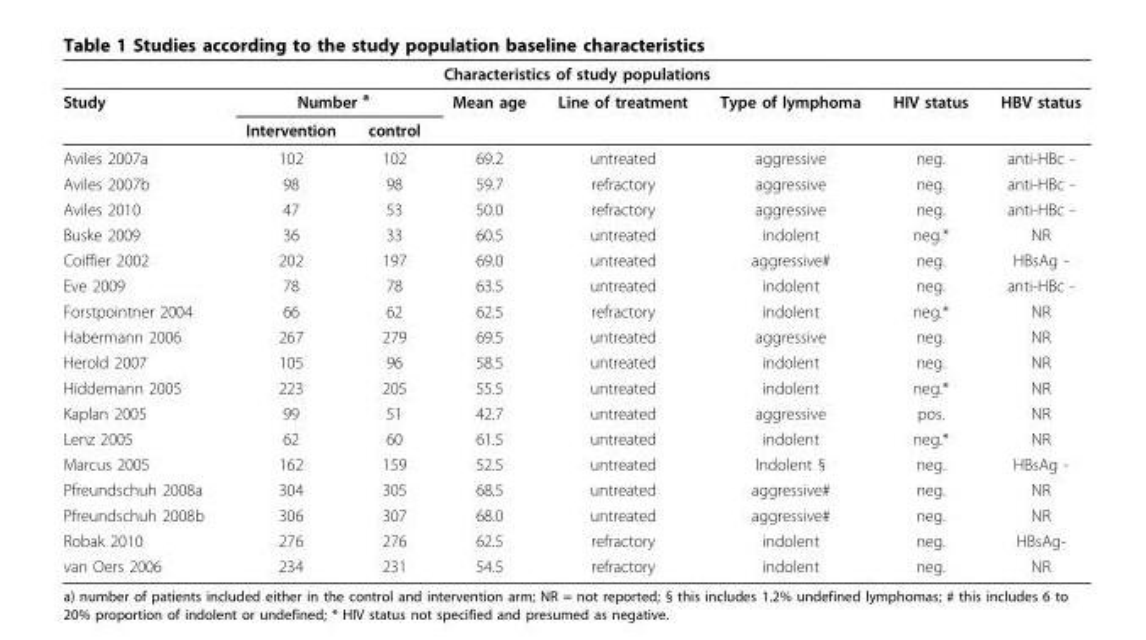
<table><thead><tr><td colspan="8">Characteristics of study populations</td></tr><tr><td rowspan="2">Study</td><td colspan="2">Number <sup>a</sup></td><td rowspan="2">Mean age</td><td rowspan="2">Line of treatment</td><td rowspan="2">Type of lymphoma</td><td rowspan="2">HIV status</td><td rowspan="2">HBV status</td></tr><tr><td>Intervention</td><td>control</td></tr></thead><tbody><tr><td>Aviles 2007a</td><td>102</td><td>102</td><td>69.2</td><td>untreated</td><td>aggressive</td><td>neg.</td><td>anti-HBc -</td></tr><tr><td>Aviles 2007b</td><td>98</td><td>98</td><td>59.7</td><td>refractory</td><td>aggressive</td><td>neg.</td><td>anti-HBc -</td></tr><tr><td>Aviles 2010</td><td>47</td><td>53</td><td>50.0</td><td>refractory</td><td>aggressive</td><td>neg.</td><td>anti-HBc -</td></tr><tr><td>Buske 2009</td><td>36</td><td>33</td><td>60.5</td><td>untreated</td><td>indolent</td><td>neg.*</td><td>NR</td></tr><tr><td>Coiffier 2002</td><td>202</td><td>197</td><td>69.0</td><td>untreated</td><td>aggressive#</td><td>neg.</td><td>HBsAg -</td></tr><tr><td>Eve 2009</td><td>78</td><td>78</td><td>63.5</td><td>untreated</td><td>indolent</td><td>neg.</td><td>anti-HBc -</td></tr><tr><td>Forstpointner 2004</td><td>66</td><td>62</td><td>62.5</td><td>refractory</td><td>indolent</td><td>neg.*</td><td>NR</td></tr><tr><td>Habermann 2006</td><td>267</td><td>279</td><td>69.5</td><td>untreated</td><td>aggressive</td><td>neg.</td><td>NR</td></tr><tr><td>Herold 2007</td><td>105</td><td>96</td><td>58.5</td><td>untreated</td><td>indolent</td><td>neg.</td><td>NR</td></tr><tr><td>Hiddemann 2005</td><td>223</td><td>205</td><td>55.5</td><td>untreated</td><td>indolent</td><td>neg.*</td><td>NR</td></tr><tr><td>Kaplan 2005</td><td>99</td><td>51</td><td>42.7</td><td>untreated</td><td>aggressive</td><td>pos.</td><td>NR</td></tr><tr><td>Lenz 2005</td><td>62</td><td>60</td><td>61.5</td><td>untreated</td><td>indolent</td><td>neg.*</td><td>NR</td></tr><tr><td>Marcus 2005</td><td>162</td><td>159</td><td>52.5</td><td>untreated</td><td>Indolent §</td><td>neg.</td><td>HBsAg -</td></tr><tr><td>Pfreundschuh 2008a</td><td>304</td><td>305</td><td>68.5</td><td>untreated</td><td>aggressive#</td><td>neg.</td><td>NR</td></tr><tr><td>Pfreundschuh 2008b</td><td>306</td><td>307</td><td>68.0</td><td>untreated</td><td>aggressive#</td><td>neg.</td><td>NR</td></tr><tr><td>Robak 2010</td><td>276</td><td>276</td><td>62.5</td><td>refractory</td><td>indolent</td><td>neg.</td><td>HBsAg-</td></tr><tr><td>van Oers 2006</td><td>234</td><td>231</td><td>54.5</td><td>refractory</td><td>indolent</td><td>neg.</td><td>NR</td></tr></tbody></table>